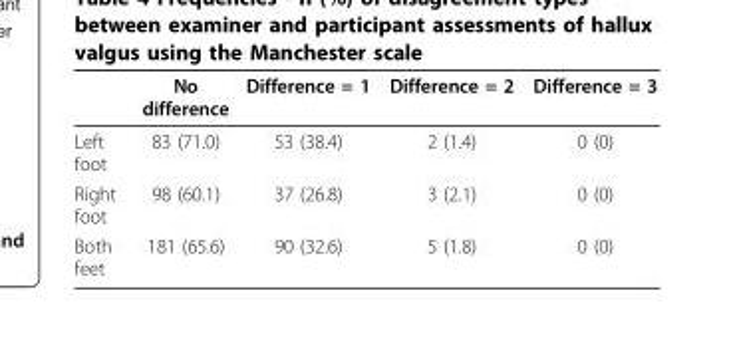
<table><thead><tr><td></td><td>No difference</td><td>Difference = 1</td><td>Difference = 2</td><td>Difference = 3</td></tr></thead><tbody><tr><td>Left foot</td><td>83 (71.0)</td><td>53 (38.4)</td><td>2 (1.4)</td><td>0 (0)</td></tr><tr><td>Right foot</td><td>98 (60.1)</td><td>37 (26.8)</td><td>3 (2.1)</td><td>0 (0)</td></tr><tr><td>Both feet</td><td>181 (65.6)</td><td>90 (32.6)</td><td>5 (1.8)</td><td>0 (0)</td></tr></tbody></table>